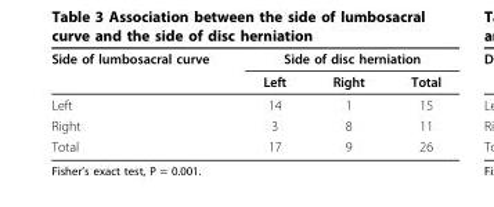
<table><thead><tr><td rowspan="2">Side of lumbosacral curve</td><td colspan="3">Side of disc herniation</td></tr><tr><td>Left</td><td>Right</td><td>Total</td></tr></thead><tbody><tr><td>Left</td><td>14</td><td>1</td><td>15</td></tr><tr><td>Right</td><td>3</td><td>8</td><td>11</td></tr><tr><td>Total</td><td>17</td><td>9</td><td>26</td></tr></tbody></table>